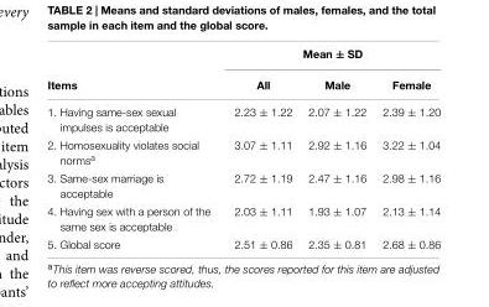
<table><thead><tr><td rowspan="2">Items</td><td colspan="3">Mean ± SD</td></tr><tr><td>All</td><td>Male</td><td>Female</td></tr></thead><tbody><tr><td>1. Having same-sex sexual impulses is acceptable</td><td>2.23 ± 1.22</td><td>2.07 ± 1.22</td><td>2.39 ± 1.20</td></tr><tr><td>2. Homosexuality violates social norms<sup>a</sup></td><td>3.07 ± 1.11</td><td>2.92 ± 1.16</td><td>3.22 ± 1.04</td></tr><tr><td>3. Same-sex marriage is acceptable</td><td>2.72 ± 1.19</td><td>2.47 ± 1.16</td><td>2.98 ± 1.16</td></tr><tr><td>4. Having sex with a person of the same sex is acceptable</td><td>2.03 ± 1.11</td><td>1.93 ± 1.07</td><td>2.13 ± 1.14</td></tr><tr><td>5. Global score</td><td>2.51 ± 0.86</td><td>2.35 ± 0.81</td><td>2.68 ± 0.86</td></tr></tbody></table>